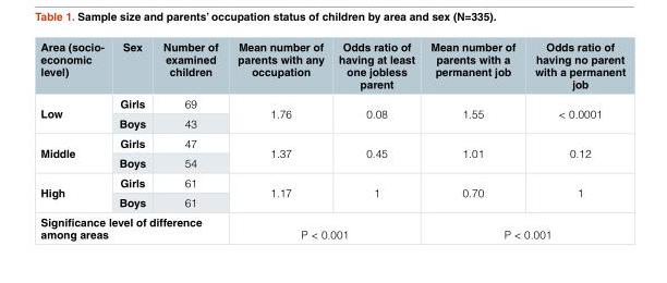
<table><thead><tr><td>Area (socio- economic level)</td><td>Sex</td><td>Number of examined children</td><td>Mean number of parents with any occupation</td><td>Odds ratio of having at least one jobless parent</td><td>Mean number of parents with a permanent job</td><td>Odds ratio of having no parent with a permanent job</td></tr></thead><tbody><tr><td rowspan="2">Low</td><td>Girls</td><td>69</td><td rowspan="2">1.76</td><td rowspan="2">0.08</td><td rowspan="2">1.55</td><td rowspan="2">&lt; 0.0001</td></tr><tr><td>Boys</td><td>43</td></tr><tr><td rowspan="2">Middle</td><td>Girls</td><td>47</td><td rowspan="2">1.37</td><td rowspan="2">0.45</td><td rowspan="2">1.01</td><td rowspan="2">0.12</td></tr><tr><td>Boys</td><td>54</td></tr><tr><td rowspan="2">High</td><td>Girls</td><td>61</td><td rowspan="2">1.17</td><td rowspan="2">1</td><td rowspan="2">0.70</td><td rowspan="2">1</td></tr><tr><td>Boys</td><td>61</td></tr><tr><td colspan="3">Significance level of difference among areas</td><td colspan="2">P &lt; 0.001</td><td colspan="2">P &lt; 0.001</td></tr></tbody></table>